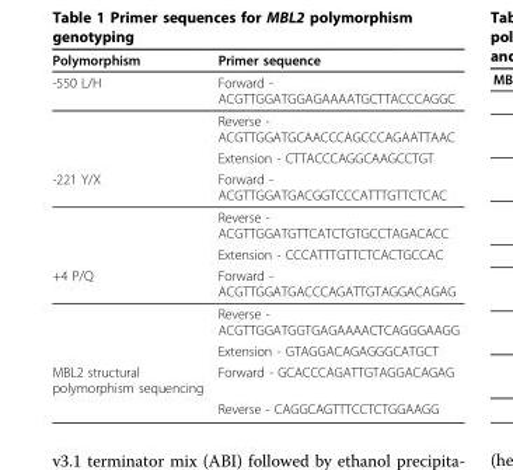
<table><thead><tr><td>Polymorphism</td><td>Primer sequence</td></tr></thead><tbody><tr><td rowspan="3">-550 L/H</td><td>Forward - ACGTTGGATGGAGAAAATGCTTACCCAGGC</td></tr><tr><td>Reverse - ACGTTGGATGCAACCCAGCCCAGAATTAAC</td></tr><tr><td>Extension - CTTACCCAGGCAAGCCTGT</td></tr><tr><td rowspan="3">-221 Y/X</td><td>Forward - ACGTTGGATGACGGTCCCATTTGTTCTCAC</td></tr><tr><td>Reverse - ACGTTGGATGTTCATCTGTGCCTAGACACC</td></tr><tr><td>Extension - CCCATTTGTTCTCACTGCCAC</td></tr><tr><td rowspan="3">+4 P/Q</td><td>Forward - ACGTTGGATGACCCAGATTGTAGGACAGAG</td></tr><tr><td>Reverse - ACGTTGGATGGTGAGAAAACTCAGGGAAGG</td></tr><tr><td>Extension - GTAGGACAGAGGGCATGCT</td></tr><tr><td rowspan="2">MBL2 structural polymorphism sequencing</td><td>Forward - GCACCCAGATTGTAGGACAGAG</td></tr><tr><td>Reverse - CAGGCAGTTTCCTCTGGAAGG</td></tr></tbody></table>